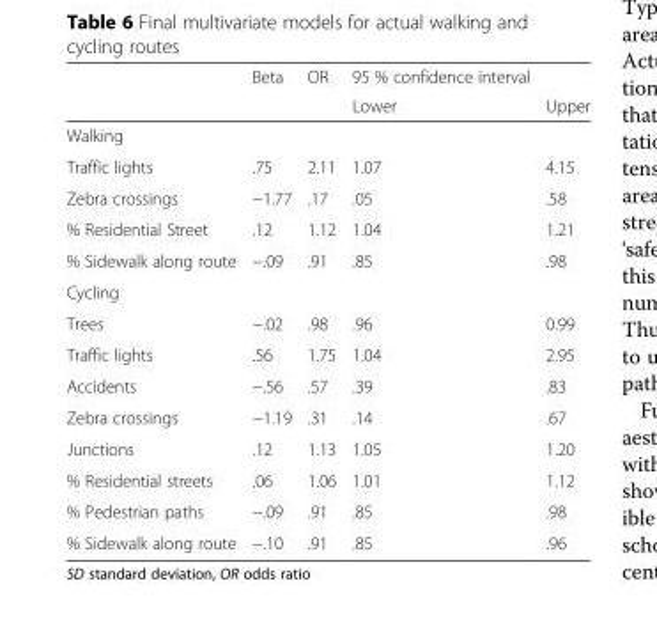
<table><thead><tr><td rowspan="2"></td><td rowspan="2">Beta</td><td rowspan="2">OR</td><td rowspan="2">95 % confidence interval Lower</td><td rowspan="2">Upper</td></tr><tr></tr></thead><tbody><tr><td colspan="5">Walking</td></tr><tr><td>Traffic lights</td><td>.75</td><td>2.11</td><td>1.07</td><td>4.15</td></tr><tr><td>Zebra crossings</td><td>−1.77</td><td>.17</td><td>.05</td><td>.58</td></tr><tr><td>% Residential Street</td><td>.12</td><td>1.12</td><td>1.04</td><td>1.21</td></tr><tr><td>% Sidewalk along route</td><td>−.09</td><td>.91</td><td>.85</td><td>.98</td></tr><tr><td colspan="5">Cycling</td></tr><tr><td>Trees</td><td>−.02</td><td>.98</td><td>.96</td><td>0.99</td></tr><tr><td>Traffic lights</td><td>.56</td><td>1.75</td><td>1.04</td><td>2.95</td></tr><tr><td>Accidents</td><td>−.56</td><td>.57</td><td>.39</td><td>.83</td></tr><tr><td>Zebra crossings</td><td>−1.19</td><td>.31</td><td>.14</td><td>.67</td></tr><tr><td>Junctions</td><td>.12</td><td>1.13</td><td>1.05</td><td>1.20</td></tr><tr><td>% Residential streets</td><td>.06</td><td>1.06</td><td>1.01</td><td>1.12</td></tr><tr><td>% Pedestrian paths</td><td>−.09</td><td>.91</td><td>.85</td><td>.98</td></tr><tr><td>% Sidewalk along route</td><td>−.10</td><td>.91</td><td>.85</td><td>.96</td></tr></tbody></table>